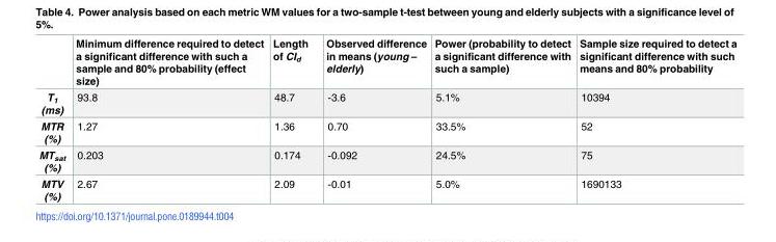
<table><thead><tr><td></td><td>Minimum difference required to detect a significant difference with such a sample and 80% probability (effect size)</td><td>Length of CI<sub>d</sub></td><td>Observed difference in means (young – elderly)</td><td>Power (probability to detect a significant difference with such a sample)</td><td>Sample size required to detect a significant difference with such means and 80% probability</td></tr></thead><tbody><tr><td>T<sub>1</sub> (ms)</td><td>93.8</td><td>48.7</td><td>-3.6</td><td>5.1%</td><td>10394</td></tr><tr><td>MTR (%)</td><td>1.27</td><td>1.36</td><td>0.70</td><td>33.5%</td><td>52</td></tr><tr><td>MT<sub>sat</sub> (%)</td><td>0.203</td><td>0.174</td><td>-0.092</td><td>24.5%</td><td>75</td></tr><tr><td>MTV (%)</td><td>2.67</td><td>2.09</td><td>-0.01</td><td>5.0%</td><td>1690133</td></tr></tbody></table>